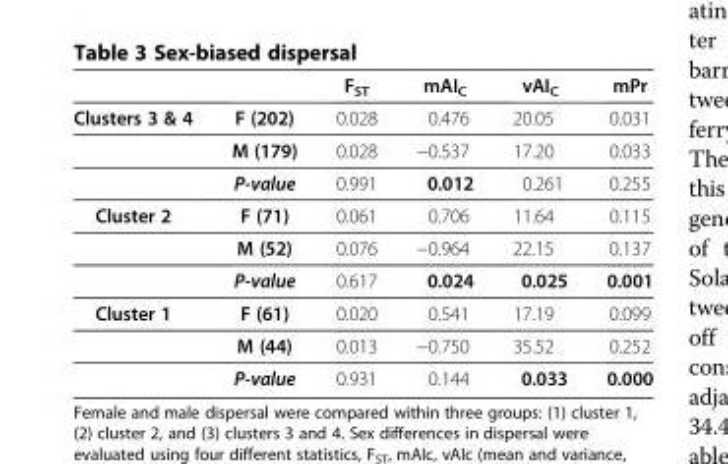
<table><thead><tr><td></td><td></td><td>F<sub>ST</sub></td><td>mAI<sub>C</sub></td><td>vAI<sub>C</sub></td><td>mPr</td></tr></thead><tbody><tr><td rowspan="3">Clusters 3 &amp; 4</td><td>F (202)</td><td>0.028</td><td>0.476</td><td>20.05</td><td>0.031</td></tr><tr><td>M (179)</td><td>0.028</td><td>−0.537</td><td>17.20</td><td>0.033</td></tr><tr><td>P-value</td><td>0.991</td><td>0.012</td><td>0.261</td><td>0.255</td></tr><tr><td rowspan="3">Cluster 2</td><td>F (71)</td><td>0.061</td><td>0.706</td><td>11.64</td><td>0.115</td></tr><tr><td>M (52)</td><td>0.076</td><td>−0.964</td><td>22.15</td><td>0.137</td></tr><tr><td>P-value</td><td>0.617</td><td>0.024</td><td>0.025</td><td>0.001</td></tr><tr><td rowspan="3">Cluster 1</td><td>F (61)</td><td>0.020</td><td>0.541</td><td>17.19</td><td>0.099</td></tr><tr><td>M (44)</td><td>0.013</td><td>−0.750</td><td>35.52</td><td>0.252</td></tr><tr><td>P-value</td><td>0.931</td><td>0.144</td><td>0.033</td><td>0.000</td></tr></tbody></table>